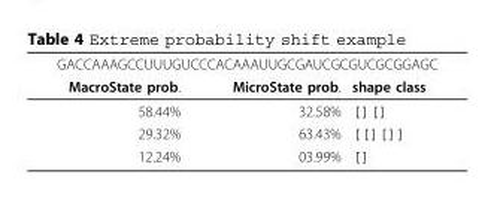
<table><thead><tr><td colspan="3">GACCAAAGCCUUUGUCCCACAAAUUGCGAUCGCGUCGCGGAGC</td></tr><tr><td>MacroState prob.</td><td>MicroState prob.</td><td>shape class</td></tr></thead><tbody><tr><td>58.44%</td><td>32.58%</td><td>[][]</td></tr><tr><td>29.32%</td><td>63.43%</td><td>[[][]]</td></tr><tr><td>12.24%</td><td>03.99%</td><td>[]</td></tr></tbody></table>